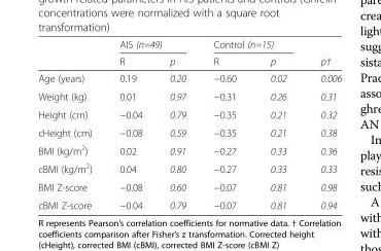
<table><thead><tr><td rowspan="2"></td><td colspan="2">AIS (n=49)</td><td colspan="2">Control (n=15)</td><td rowspan="2">p†</td></tr><tr><td>R</td><td>p</td><td>R</td><td>p</td></tr></thead><tbody><tr><td>Age (years)</td><td>0.19</td><td>0.20</td><td>−0.60</td><td>0.02</td><td>0.006</td></tr><tr><td>Weight (kg)</td><td>0.01</td><td>0.97</td><td>−0.31</td><td>0.26</td><td>0.31</td></tr><tr><td>Height (cm)</td><td>−0.04</td><td>0.79</td><td>−0.35</td><td>0.21</td><td>0.32</td></tr><tr><td>cHeight (cm)</td><td>−0.08</td><td>0.59</td><td>−0.35</td><td>0.21</td><td>0.38</td></tr><tr><td>BMI (kg/m<sup>2</sup>)</td><td>0.02</td><td>0.91</td><td>−0.27</td><td>0.33</td><td>0.36</td></tr><tr><td>cBMI (kg/m<sup>2</sup>)</td><td>0.04</td><td>0.80</td><td>−0.27</td><td>0.33</td><td>0.33</td></tr><tr><td>BMI Z-score</td><td>−0.08</td><td>0.60</td><td>−0.07</td><td>0.81</td><td>0.98</td></tr><tr><td>cBMI Z-score</td><td>−0.04</td><td>0.79</td><td>−0.07</td><td>0.81</td><td>0.94</td></tr></tbody></table>